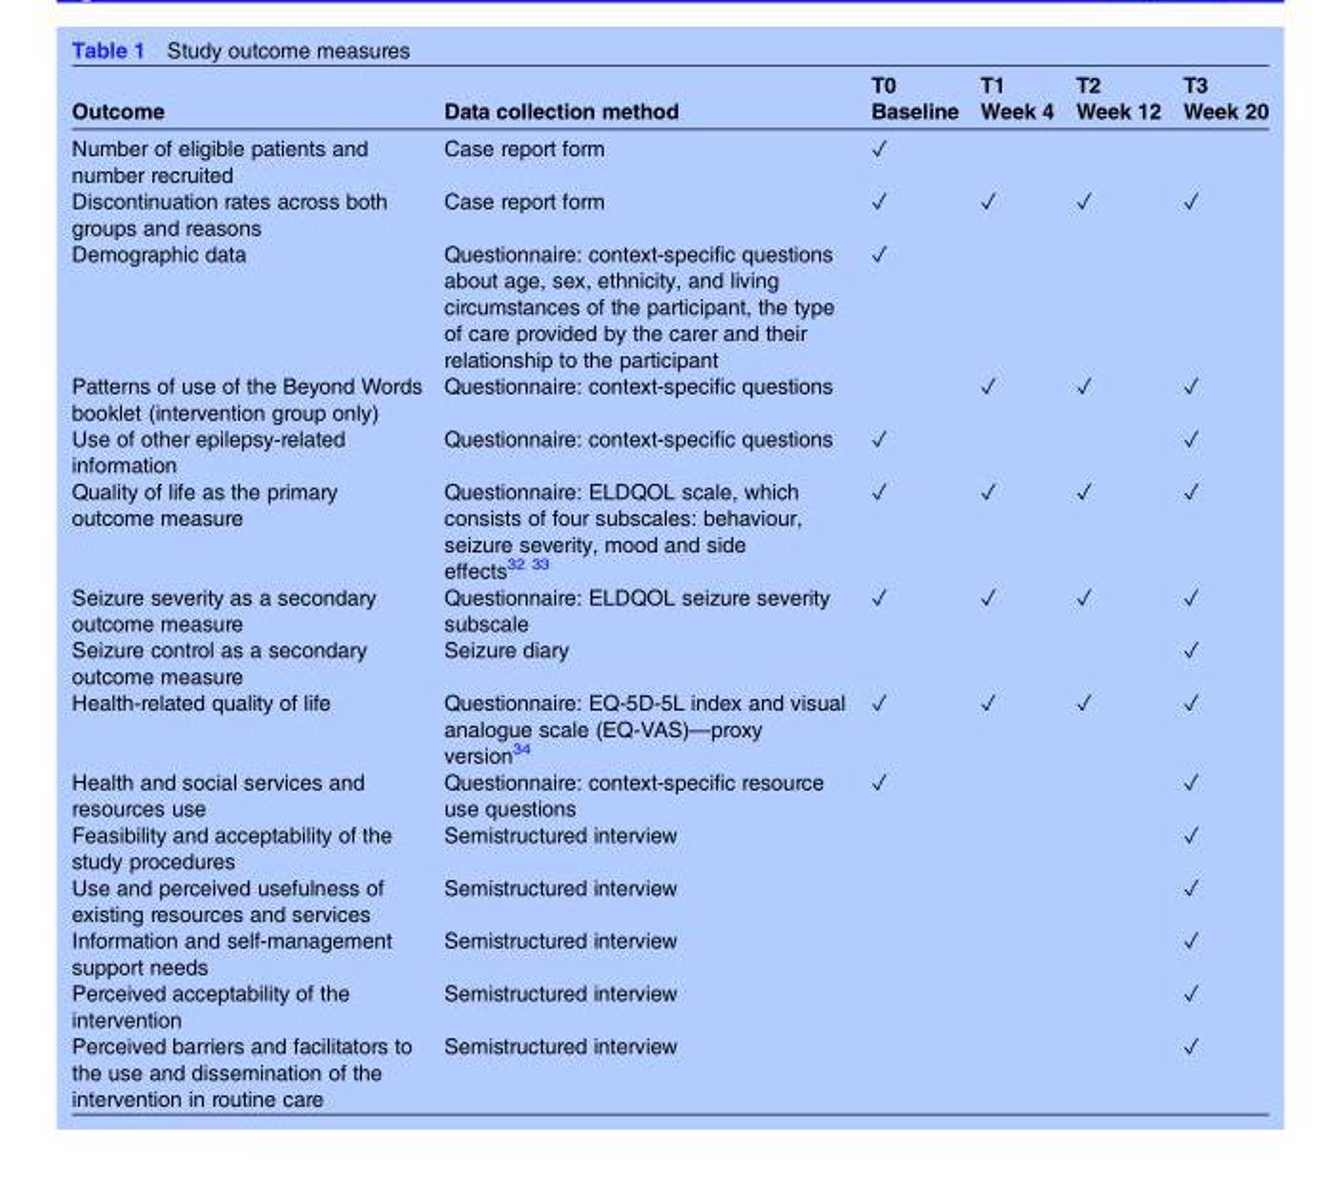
<table><thead><tr><td>Outcome</td><td>Data collection method</td><td>T0 Baseline</td><td>T1 Week 4</td><td>T2 Week 12</td><td>T3 Week 20</td></tr></thead><tbody><tr><td>Number of eligible patients and number recruited</td><td>Case report form</td><td>✓</td><td></td><td></td><td></td></tr><tr><td>Discontinuation rates across both groups and reasons</td><td>Case report form</td><td>✓</td><td>✓</td><td>✓</td><td>✓</td></tr><tr><td>Demographic data</td><td>Questionnaire: context-specific questions about age, sex, ethnicity, and living circumstances of the participant, the type of care provided by the carer and their relationship to the participant</td><td>✓</td><td></td><td></td><td></td></tr><tr><td>Patterns of use of the Beyond Words booklet (intervention group only)</td><td>Questionnaire: context-specific questions</td><td></td><td>✓</td><td>✓</td><td>✓</td></tr><tr><td>Use of other epilepsy-related information</td><td>Questionnaire: context-specific questions</td><td>✓</td><td></td><td></td><td>✓</td></tr><tr><td>Quality of life as the primary outcome measure</td><td>Questionnaire: ELDQOL scale, which consists of four subscales: behaviour, seizure severity, mood and side effects<sup>32 33</sup></td><td>✓</td><td>✓</td><td>✓</td><td>✓</td></tr><tr><td>Seizure severity as a secondary outcome measure</td><td>Questionnaire: ELDQOL seizure severity subscale</td><td>✓</td><td>✓</td><td>✓</td><td>✓</td></tr><tr><td>Seizure control as a secondary outcome measure</td><td>Seizure diary</td><td></td><td></td><td></td><td>✓</td></tr><tr><td>Health-related quality of life</td><td>Questionnaire: EQ-5D-5L index and visual analogue scale (EQ-VAS)—proxy version<sup>34</sup></td><td>✓</td><td>✓</td><td>✓</td><td>✓</td></tr><tr><td>Health and social services and resources use</td><td>Questionnaire: context-specific resource use questions</td><td>✓</td><td></td><td></td><td>✓</td></tr><tr><td>Feasibility and acceptability of the study procedures</td><td>Semistructured interview</td><td></td><td></td><td></td><td>✓</td></tr><tr><td>Use and perceived usefulness of existing resources and services</td><td>Semistructured interview</td><td></td><td></td><td></td><td>✓</td></tr><tr><td>Information and self-management support needs</td><td>Semistructured interview</td><td></td><td></td><td></td><td>✓</td></tr><tr><td>Perceived acceptability of the intervention</td><td>Semistructured interview</td><td></td><td></td><td></td><td>✓</td></tr><tr><td>Perceived barriers and facilitators to the use and dissemination of the intervention in routine care</td><td>Semistructured interview</td><td></td><td></td><td></td><td>✓</td></tr></tbody></table>